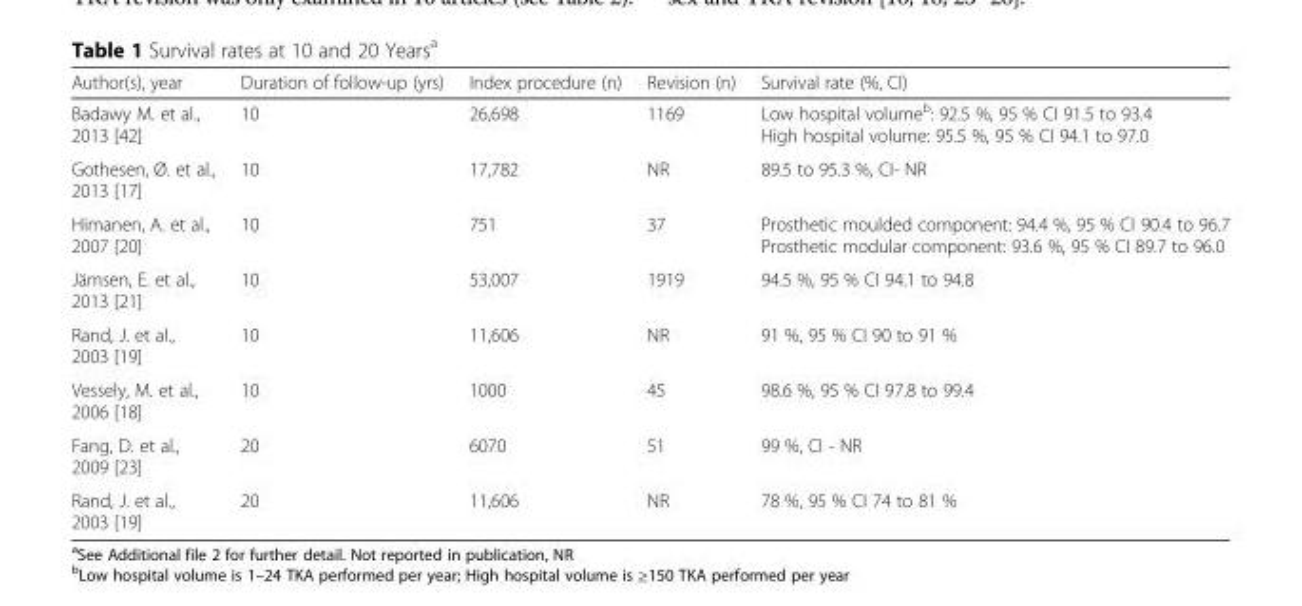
<table><thead><tr><td>Author(s), year</td><td>Duration of follow-up (yrs)</td><td>Index procedure (n)</td><td>Revision (n)</td><td>Survival rate (%, CI)</td></tr></thead><tbody><tr><td>Badawy M. et al., 2013 [42]</td><td>10</td><td>26,698</td><td>1169</td><td>Low hospital volume<sup>b</sup>: 92.5 %, 95 % CI 91.5 to 93.4 High hospital volume: 95.5 %, 95 % CI 94.1 to 97.0</td></tr><tr><td>Gothesen, Ø. et al., 2013 [17]</td><td>10</td><td>17,782</td><td>NR</td><td>89.5 to 95.3 %, CI- NR</td></tr><tr><td>Himanen, A. et al., 2007 [20]</td><td>10</td><td>751</td><td>37</td><td>Prosthetic moulded component: 94.4 %, 95 % CI 90.4 to 96.7 Prosthetic modular component: 93.6 %, 95 % CI 89.7 to 96.0</td></tr><tr><td>Jämsen, E. et al., 2013 [21]</td><td>10</td><td>53,007</td><td>1919</td><td>94.5 %, 95 % CI 94.1 to 94.8</td></tr><tr><td>Rand, J. et al., 2003 [19]</td><td>10</td><td>11,606</td><td>NR</td><td>91 %, 95 % CI 90 to 91 %</td></tr><tr><td>Vessely, M. et al., 2006 [18]</td><td>10</td><td>1000</td><td>45</td><td>98.6 %, 95 % CI 97.8 to 99.4</td></tr><tr><td>Fang, D. et al., 2009 [23]</td><td>20</td><td>6070</td><td>51</td><td>99 %, CI - NR</td></tr><tr><td>Rand, J. et al., 2003 [19]</td><td>20</td><td>11,606</td><td>NR</td><td>78 %, 95 % CI 74 to 81 %</td></tr></tbody></table>